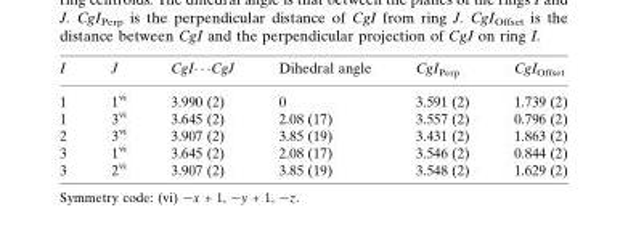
<table><tbody><tr><td>I</td><td>J</td><td>CgI· · ·CgJ</td><td>Dihedral angle</td><td>CgI<sub>Perp</sub></td><td>CgI<sub>Offset</sub></td></tr><tr><td>1</td><td>1<sup>vi</sup></td><td>3.990 (2)</td><td>0</td><td>3.591 (2)</td><td>1.739 (2)</td></tr><tr><td>1</td><td>3<sup>vi</sup></td><td>3.645 (2)</td><td>2.08 (17)</td><td>3.557 (2)</td><td>0.796 (2)</td></tr><tr><td>2</td><td>3<sup>vi</sup></td><td>3.907 (2)</td><td>3.85 (19)</td><td>3.431 (2)</td><td>1.863 (2)</td></tr><tr><td>3</td><td>1<sup>vi</sup></td><td>3.645 (2)</td><td>2.08 (17)</td><td>3.546 (2)</td><td>0.844 (2)</td></tr><tr><td>3</td><td>2<sup>vi</sup></td><td>3.907 (2)</td><td>3.85 (19)</td><td>3.548 (2)</td><td>1.629 (2)</td></tr></tbody></table>